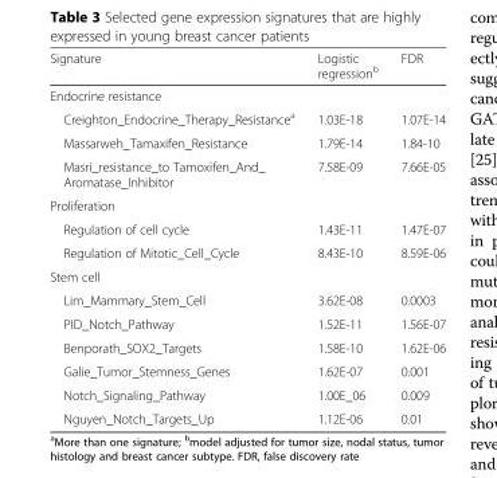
<table><thead><tr><td>Signature</td><td>Logistic regression<sup>b</sup></td><td>FDR</td></tr></thead><tbody><tr><td colspan="3">Endocrine resistance</td></tr><tr><td>Creighton_Endocrine_Therapy_Resistance<sup>a</sup></td><td>1.03E-18</td><td>1.07E-14</td></tr><tr><td>Massarweh_Tamaxifen_Resistance</td><td>1.79E-14</td><td>1.84-10</td></tr><tr><td>Masri_resistance_to Tamoxifen_And_ Aromatase_Inhibitor</td><td>7.58E-09</td><td>7.66E-05</td></tr><tr><td colspan="3">Proliferation</td></tr><tr><td>Regulation of cell cycle</td><td>1.43E-11</td><td>1.47E-07</td></tr><tr><td>Regulation of Mitotic_Cell_Cycle</td><td>8.43E-10</td><td>8.59E-06</td></tr><tr><td colspan="3">Stem cell</td></tr><tr><td>Lim_Mammary_Stem_Cell</td><td>3.62E-08</td><td>0.0003</td></tr><tr><td>PID_Notch_Pathway</td><td>1.52E-11</td><td>1.56E-07</td></tr><tr><td>Benporath_SOX2_Targets</td><td>1.58E-10</td><td>1.62E-06</td></tr><tr><td>Galie_Tumor_Stemness_Genes</td><td>1.62E-07</td><td>0.001</td></tr><tr><td>Notch_Signaling_Pathway</td><td>1.00E_06</td><td>0.009</td></tr><tr><td>Nguyen_Notch_Targets_Up</td><td>1.12E-06</td><td>0.01</td></tr></tbody></table>